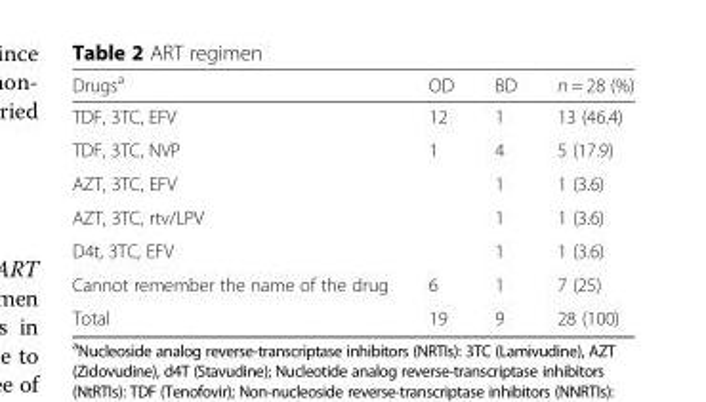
<table><thead><tr><td>Drugs<sup>a</sup></td><td>OD</td><td>BD</td><td>n = 28 (%)</td></tr></thead><tbody><tr><td>TDF, 3TC, EFV</td><td>12</td><td>1</td><td>13 (46.4)</td></tr><tr><td>TDF, 3TC, NVP</td><td>1</td><td>4</td><td>5 (17.9)</td></tr><tr><td>AZT, 3TC, EFV</td><td></td><td>1</td><td>1 (3.6)</td></tr><tr><td>AZT, 3TC, rtv/LPV</td><td></td><td>1</td><td>1 (3.6)</td></tr><tr><td>D4t, 3TC, EFV</td><td></td><td>1</td><td>1 (3.6)</td></tr><tr><td>Cannot remember the name of the drug</td><td>6</td><td>1</td><td>7 (25)</td></tr><tr><td>Total</td><td>19</td><td>9</td><td>28 (100)</td></tr></tbody></table>